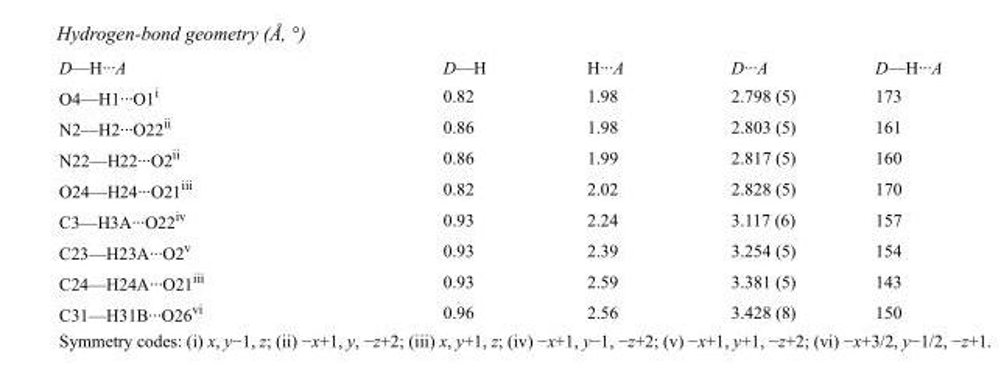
<table><tbody><tr><td>D—H···A</td><td>D—H</td><td>H···A</td><td>D···A</td><td>D—H···A</td></tr><tr><td>O4—H1···O1<sup>i</sup></td><td>0.82</td><td>1.98</td><td>2.798 (5)</td><td>173</td></tr><tr><td>N2—H2···O22<sup>ii</sup></td><td>0.86</td><td>1.98</td><td>2.803 (5)</td><td>161</td></tr><tr><td>N22—H22···O2<sup>ii</sup></td><td>0.86</td><td>1.99</td><td>2.817 (5)</td><td>160</td></tr><tr><td>O24—H24···O21<sup>iii</sup></td><td>0.82</td><td>2.02</td><td>2.828 (5)</td><td>170</td></tr><tr><td>C3—H3A···O22<sup>iv</sup></td><td>0.93</td><td>2.24</td><td>3.117 (6)</td><td>157</td></tr><tr><td>C23—H23A···O2<sup>v</sup></td><td>0.93</td><td>2.39</td><td>3.254 (5)</td><td>154</td></tr><tr><td>C24—H24A···O21<sup>iii</sup></td><td>0.93</td><td>2.59</td><td>3.381 (5)</td><td>143</td></tr><tr><td>C31—H31B···O26<sup>vi</sup></td><td>0.96</td><td>2.56</td><td>3.428 (8)</td><td>150</td></tr></tbody></table>